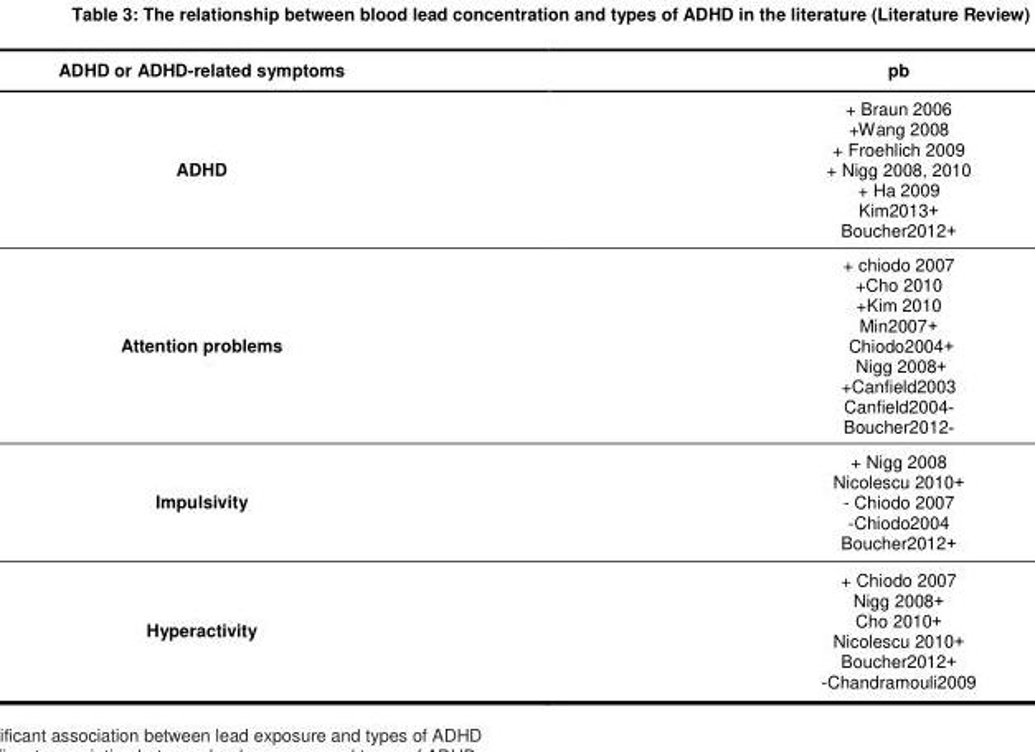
<table><thead><tr><td>ADHD or ADHD-related symptoms</td><td>pb</td></tr></thead><tbody><tr><td>ADHD</td><td>+ Braun 2006 +Wang 2008 + Froehlich 2009 + Nigg 2008, 2010 + Ha 2009 + Kim2013‏ + Boucher2012</td></tr><tr><td>Attention problems</td><td>+ chiodo 2007 +Cho 2010 +Kim 2010 + Min2007 + Chiodo2004‏ + Nigg 2008‏ +Canfield2003 - Canfield2004 - Boucher2012</td></tr><tr><td>Impulsivity</td><td>+ Nigg 2008 + Nicolescu 2010 - Chiodo 2007 -Chiodo2004 + Boucher2012</td></tr><tr><td>Hyperactivity</td><td>+ Chiodo 2007 + Nigg 2008 + Cho 2010 + Nicolescu 2010 + Boucher2012 -Chandramouli2009</td></tr></tbody></table>